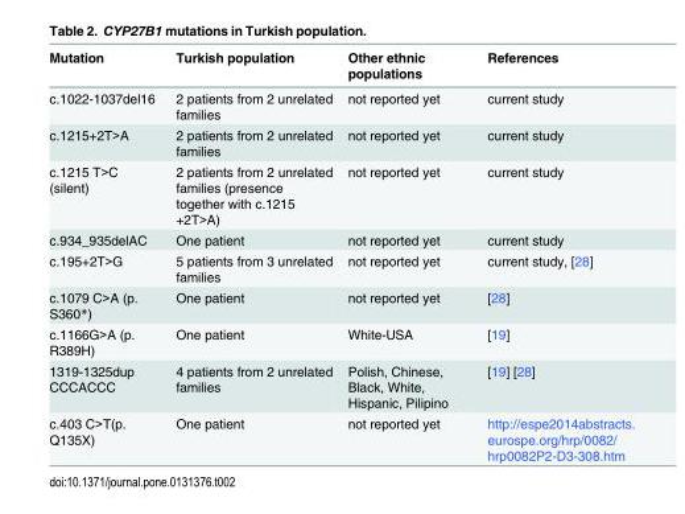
<table><thead><tr><td>Mutation</td><td>Turkish population</td><td>Other ethnic populations</td><td>References</td></tr></thead><tbody><tr><td>c.1022-1037del16</td><td>2 patients from 2 unrelated families</td><td>not reported yet</td><td>current study</td></tr><tr><td>c.1215+2T&gt;A</td><td>2 patients from 2 unrelated families</td><td>not reported yet</td><td>current study</td></tr><tr><td>c.1215 T&gt;C (silent)</td><td>2 patients from 2 unrelated families (presence together with c.1215 +2T&gt;A)</td><td>not reported yet</td><td>current study</td></tr><tr><td>c.934_935delAC</td><td>One patient</td><td>not reported yet</td><td>current study</td></tr><tr><td>c.195+2T&gt;G</td><td>5 patients from 3 unrelated families</td><td>not reported yet</td><td>current study, [28]</td></tr><tr><td>c.1079 C&gt;A (p. S360*)</td><td>One patient</td><td>not reported yet</td><td>[28]</td></tr><tr><td>c.1166G&gt;A (p. R389H)</td><td>One patient</td><td>White-USA</td><td>[19]</td></tr><tr><td>1319-1325dup CCCACCC</td><td>4 patients from 2 unrelated families</td><td>Polish, Chinese, Black, White, Hispanic, Pilipino</td><td>[19] [28]</td></tr><tr><td>c.403 C&gt;T(p. Q135X)</td><td>One patient</td><td>not reported yet</td><td>http://espe2014abstracts. eurospe.org/hrp/0082/ hrp0082P2-D3-308.htm</td></tr></tbody></table>